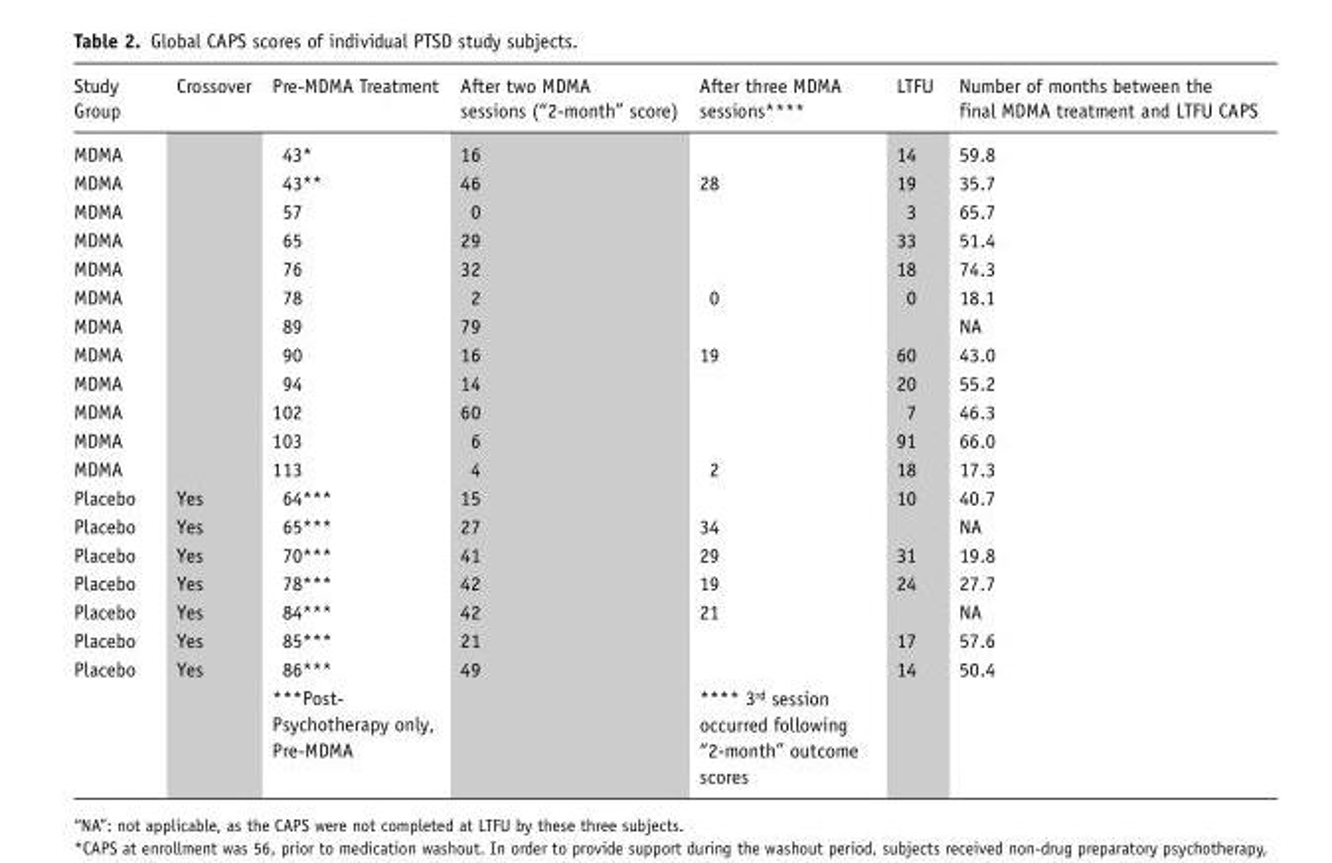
<table><thead><tr><td>Study Group</td><td>Crossover</td><td>Pre-MDMA Treatment</td><td>After two MDMA sessions (“2-month” score)</td><td>After three MDMA sessions****</td><td>LTFU</td><td>Number of months between the final MDMA treatment and LTFU CAPS</td></tr></thead><tbody><tr><td>MDMA</td><td></td><td>43*</td><td>16</td><td></td><td>14</td><td>59.8</td></tr><tr><td>MDMA</td><td></td><td>43**</td><td>46</td><td>28</td><td>19</td><td>35.7</td></tr><tr><td>MDMA</td><td></td><td>57</td><td>0</td><td></td><td>3</td><td>65.7</td></tr><tr><td>MDMA</td><td></td><td>65</td><td>29</td><td></td><td>33</td><td>51.4</td></tr><tr><td>MDMA</td><td></td><td>76</td><td>32</td><td></td><td>18</td><td>74.3</td></tr><tr><td>MDMA</td><td></td><td>78</td><td>2</td><td>0</td><td>0</td><td>18.1</td></tr><tr><td>MDMA</td><td></td><td>89</td><td>79</td><td></td><td></td><td>NA</td></tr><tr><td>MDMA</td><td></td><td>90</td><td>16</td><td>19</td><td>60</td><td>43.0</td></tr><tr><td>MDMA</td><td></td><td>94</td><td>14</td><td></td><td>20</td><td>55.2</td></tr><tr><td>MDMA</td><td></td><td>102</td><td>60</td><td></td><td>7</td><td>46.3</td></tr><tr><td>MDMA</td><td></td><td>103</td><td>6</td><td></td><td>91</td><td>66.0</td></tr><tr><td>MDMA</td><td></td><td>113</td><td>4</td><td>2</td><td>18</td><td>17.3</td></tr><tr><td>Placebo</td><td>Yes</td><td>64***</td><td>15</td><td></td><td>10</td><td>40.7</td></tr><tr><td>Placebo</td><td>Yes</td><td>65***</td><td>27</td><td>34</td><td></td><td>NA</td></tr><tr><td>Placebo</td><td>Yes</td><td>70***</td><td>41</td><td>29</td><td>31</td><td>19.8</td></tr><tr><td>Placebo</td><td>Yes</td><td>78***</td><td>42</td><td>19</td><td>24</td><td>27.7</td></tr><tr><td>Placebo</td><td>Yes</td><td>84***</td><td>42</td><td>21</td><td></td><td>NA</td></tr><tr><td>Placebo</td><td>Yes</td><td>85***</td><td>21</td><td></td><td>17</td><td>57.6</td></tr><tr><td rowspan="2">Placebo</td><td>Yes</td><td>86***</td><td>49</td><td></td><td>14</td><td>50.4</td></tr><tr><td></td><td>***Post- Psychotherapy only, Pre-MDMA</td><td></td><td>**** 3<sup>rd</sup> session occurred following “2-month” outcome scores</td><td></td><td></td></tr></tbody></table>